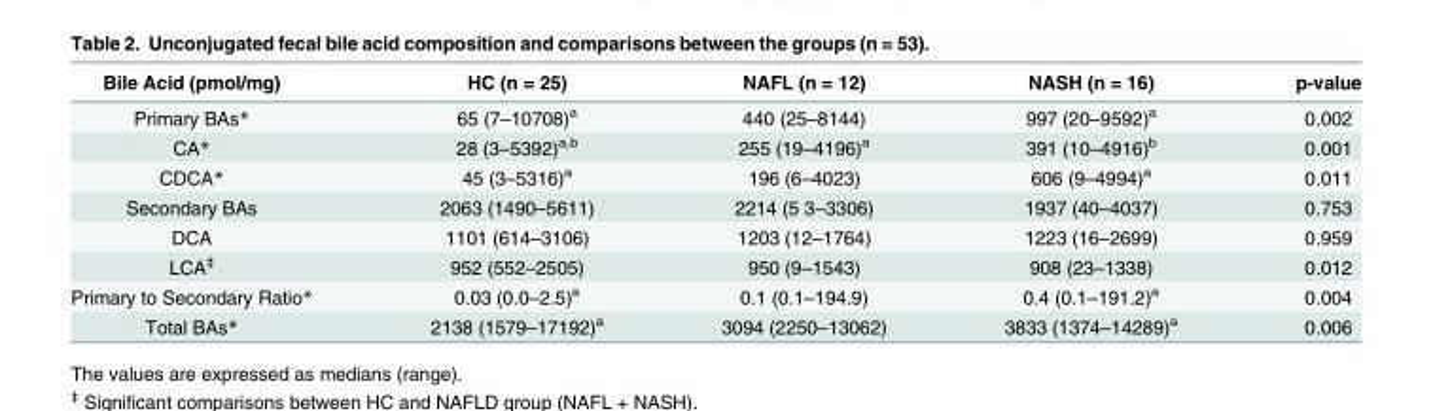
<table><thead><tr><td>Bile Acid (pmol/mg)</td><td>HC (n = 25)</td><td>NAFL (n = 12)</td><td>NASH (n = 16)</td><td>p-value</td></tr></thead><tbody><tr><td>Primary BAs*</td><td>65 (7–10708)<sup>a</sup></td><td>440 (25–8144)</td><td>997 (20–9592)<sup>a</sup></td><td>0.002</td></tr><tr><td>CA*</td><td>28 (3–5392)<sup>a,b</sup></td><td>255 (19–4196)<sup>a</sup></td><td>391 (10–4916)<sup>b</sup></td><td>0.001</td></tr><tr><td>CDCA*</td><td>45 (3–5316)<sup>a</sup></td><td>196 (6–4023)</td><td>606 (9–4994)<sup>a</sup></td><td>0.011</td></tr><tr><td>Secondary BAs</td><td>2063 (1490–5611)</td><td>2214 (5 3–3306)</td><td>1937 (40–4037)</td><td>0.753</td></tr><tr><td>DCA</td><td>1101 (614–3106)</td><td>1203 (12–1764)</td><td>1223 (16–2699)</td><td>0.959</td></tr><tr><td>LCA‡</td><td>952 (552–2505)</td><td>950 (9–1543)</td><td>908 (23–1338)</td><td>0.012</td></tr><tr><td>Primary to Secondary Ratio*</td><td>0.03 (0.0–2.5)<sup>a</sup></td><td>0.1 (0.1–194.9)</td><td>0.4 (0.1–191.2)<sup>a</sup></td><td>0.004</td></tr><tr><td>Total BAs*</td><td>2138 (1579–17192)<sup>a</sup></td><td>3094 (2250–13062)</td><td>3833 (1374–14289)<sup>a</sup></td><td>0.006</td></tr></tbody></table>